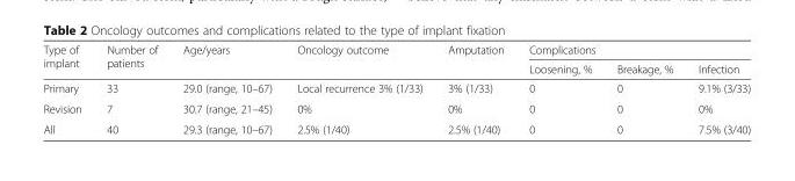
<table><thead><tr><td rowspan="2">Type of implant</td><td rowspan="2">Number of patients</td><td rowspan="2">Age/years</td><td rowspan="2">Oncology outcome</td><td rowspan="2">Amputation</td><td colspan="3">Complications</td></tr><tr><td>Loosening, %</td><td>Breakage, %</td><td>Infection</td></tr></thead><tbody><tr><td>Primary</td><td>33</td><td>29.0 (range, 10–67)</td><td>Local recurrence 3% (1/33)</td><td>3% (1/33)</td><td>0</td><td>0</td><td>9.1% (3/33)</td></tr><tr><td>Revision</td><td>7</td><td>30.7 (range, 21–45)</td><td>0%</td><td>0%</td><td>0</td><td>0</td><td>0%</td></tr><tr><td>All</td><td>40</td><td>29.3 (range, 10–67)</td><td>2.5% (1/40)</td><td>2.5% (1/40)</td><td>0</td><td>0</td><td>7.5% (3/40)</td></tr></tbody></table>